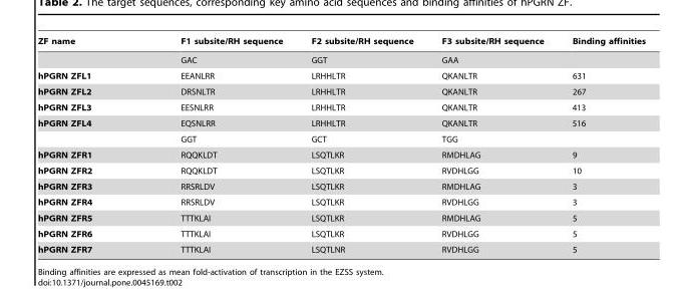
<table><thead><tr><td>ZF name</td><td>F1 subsite/RH sequence</td><td>F2 subsite/RH sequence</td><td>F3 subsite/RH sequence</td><td>Binding affinities</td></tr></thead><tbody><tr><td></td><td>GAC</td><td>GGT</td><td>GAA</td><td></td></tr><tr><td>hPGRN ZFL1</td><td>EEANLRR</td><td>LRHHLTR</td><td>QKANLTR</td><td>631</td></tr><tr><td>hPGRN ZFL2</td><td>DRSNLTR</td><td>LRHHLTR</td><td>QKANLTR</td><td>267</td></tr><tr><td>hPGRN ZFL3</td><td>EESNLRR</td><td>LRHHLTR</td><td>QKANLTR</td><td>413</td></tr><tr><td rowspan="2">hPGRN ZFL4</td><td>EQSNLRR</td><td>LRHHLTR</td><td>QKANLTR</td><td>516</td></tr><tr><td>GGT</td><td>GCT</td><td>TGG</td><td></td></tr><tr><td>hPGRN ZFR1</td><td>RQQKLDT</td><td>LSQTLKR</td><td>RMDHLAG</td><td>9</td></tr><tr><td>hPGRN ZFR2</td><td>RQQKLDT</td><td>LSQTLKR</td><td>RVDHLGG</td><td>10</td></tr><tr><td>hPGRN ZFR3</td><td>RRSRLDV</td><td>LSQTLKR</td><td>RMDHLAG</td><td>3</td></tr><tr><td>hPGRN ZFR4</td><td>RRSRLDV</td><td>LSQTLKR</td><td>RVDHLGG</td><td>3</td></tr><tr><td>hPGRN ZFR5</td><td>TTTKLAI</td><td>LSQTLKR</td><td>RMDHLAG</td><td>5</td></tr><tr><td>hPGRN ZFR6</td><td>TTTKLAI</td><td>LSQTLKR</td><td>RVDHLGG</td><td>5</td></tr><tr><td>hPGRN ZFR7</td><td>TTTKLAI</td><td>LSQTLNR</td><td>RVDHLGG</td><td>5</td></tr></tbody></table>